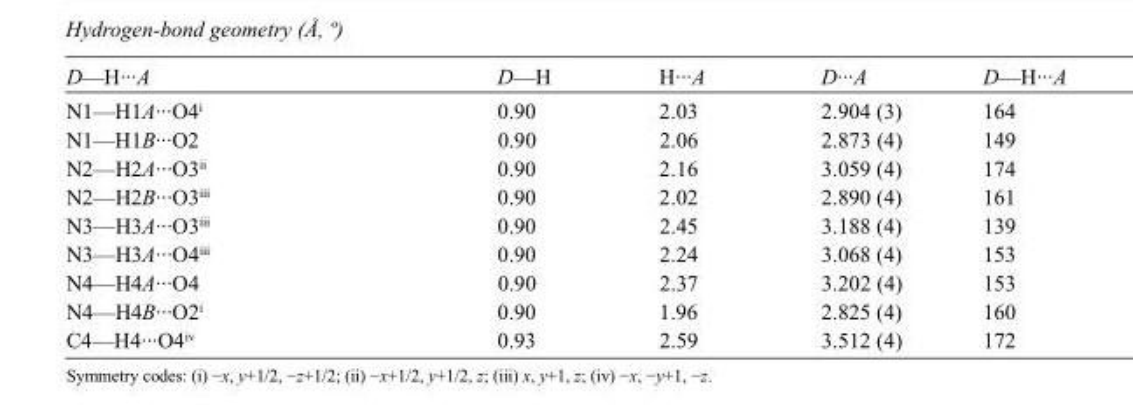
<table><tbody><tr><td>D—H···A</td><td>D—H</td><td>H···A</td><td>D···A</td><td>D—H···A</td></tr><tr><td>N1—H1A···O4<sup>i</sup></td><td>0.90</td><td>2.03</td><td>2.904 (3)</td><td>164</td></tr><tr><td>N1—H1B···O2</td><td>0.90</td><td>2.06</td><td>2.873 (4)</td><td>149</td></tr><tr><td>N2—H2A···O3<sup>ii</sup></td><td>0.90</td><td>2.16</td><td>3.059 (4)</td><td>174</td></tr><tr><td>N2—H2B···O3<sup>iii</sup></td><td>0.90</td><td>2.02</td><td>2.890 (4)</td><td>161</td></tr><tr><td>N3—H3A···O3<sup>iii</sup></td><td>0.90</td><td>2.45</td><td>3.188 (4)</td><td>139</td></tr><tr><td>N3—H3A···O4<sup>iii</sup></td><td>0.90</td><td>2.24</td><td>3.068 (4)</td><td>153</td></tr><tr><td>N4—H4A···O4</td><td>0.90</td><td>2.37</td><td>3.202 (4)</td><td>153</td></tr><tr><td>N4—H4B···O2<sup>i</sup></td><td>0.90</td><td>1.96</td><td>2.825 (4)</td><td>160</td></tr><tr><td>C4—H4···O4<sup>iv</sup></td><td>0.93</td><td>2.59</td><td>3.512 (4)</td><td>172</td></tr></tbody></table>